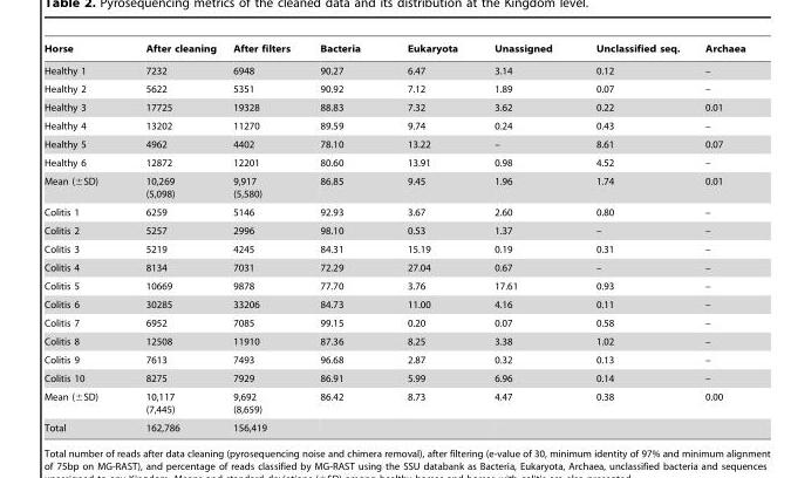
<table><thead><tr><td>Horse</td><td>After cleaning</td><td>After filters</td><td>Bacteria</td><td>Eukaryota</td><td>Unassigned</td><td>Unclassified seq.</td><td>Archaea</td></tr></thead><tbody><tr><td>Healthy 1</td><td>7232</td><td>6948</td><td>90.27</td><td>6.47</td><td>3.14</td><td>0.12</td><td>–</td></tr><tr><td>Healthy 2</td><td>5622</td><td>5351</td><td>90.92</td><td>7.12</td><td>1.89</td><td>0.07</td><td>–</td></tr><tr><td>Healthy 3</td><td>17725</td><td>19328</td><td>88.83</td><td>7.32</td><td>3.62</td><td>0.22</td><td>0.01</td></tr><tr><td>Healthy 4</td><td>13202</td><td>11270</td><td>89.59</td><td>9.74</td><td>0.24</td><td>0.43</td><td>–</td></tr><tr><td>Healthy 5</td><td>4962</td><td>4402</td><td>78.10</td><td>13.22</td><td>–</td><td>8.61</td><td>0.07</td></tr><tr><td>Healthy 6</td><td>12872</td><td>12201</td><td>80.60</td><td>13.91</td><td>0.98</td><td>4.52</td><td>–</td></tr><tr><td>Mean (±SD)</td><td>10,269 (5,098)</td><td>9,917 (5,580)</td><td>86.85</td><td>9.45</td><td>1.96</td><td>1.74</td><td>0.01</td></tr><tr><td>Colitis 1</td><td>6259</td><td>5146</td><td>92.93</td><td>3.67</td><td>2.60</td><td>0.80</td><td>–</td></tr><tr><td>Colitis 2</td><td>5257</td><td>2996</td><td>98.10</td><td>0.53</td><td>1.37</td><td>–</td><td>–</td></tr><tr><td>Colitis 3</td><td>5219</td><td>4245</td><td>84.31</td><td>15.19</td><td>0.19</td><td>0.31</td><td>–</td></tr><tr><td>Colitis 4</td><td>8134</td><td>7031</td><td>72.29</td><td>27.04</td><td>0.67</td><td>–</td><td>–</td></tr><tr><td>Colitis 5</td><td>10669</td><td>9878</td><td>77.70</td><td>3.76</td><td>17.61</td><td>0.93</td><td>–</td></tr><tr><td>Colitis 6</td><td>30285</td><td>33206</td><td>84.73</td><td>11.00</td><td>4.16</td><td>0.11</td><td>–</td></tr><tr><td>Colitis 7</td><td>6952</td><td>7085</td><td>99.15</td><td>0.20</td><td>0.07</td><td>0.58</td><td>–</td></tr><tr><td>Colitis 8</td><td>12508</td><td>11910</td><td>87.36</td><td>8.25</td><td>3.38</td><td>1.02</td><td>–</td></tr><tr><td>Colitis 9</td><td>7613</td><td>7493</td><td>96.68</td><td>2.87</td><td>0.32</td><td>0.13</td><td>–</td></tr><tr><td>Colitis 10</td><td>8275</td><td>7929</td><td>86.91</td><td>5.99</td><td>6.96</td><td>0.14</td><td>–</td></tr><tr><td>Mean (±SD)</td><td>10,117 (7,445)</td><td>9,692 (8,659)</td><td>86.42</td><td>8.73</td><td>4.47</td><td>0.38</td><td>0.00</td></tr><tr><td>Total</td><td>162,786</td><td>156,419</td><td></td><td></td><td></td><td></td><td></td></tr></tbody></table>